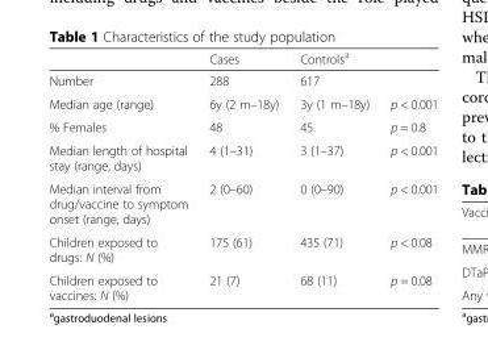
<table><thead><tr><td></td><td>Cases</td><td>Controls<sup>a</sup></td><td></td></tr></thead><tbody><tr><td>Number</td><td>288</td><td>617</td><td></td></tr><tr><td>Median age (range)</td><td>6y (2 m–18y)</td><td>3y (1 m–18y)</td><td>p &lt; 0.001</td></tr><tr><td>% Females</td><td>48</td><td>45</td><td>p = 0.8</td></tr><tr><td>Median length of hospital stay (range, days)</td><td>4 (1–31)</td><td>3 (1–37)</td><td>p &lt; 0.001</td></tr><tr><td>Median interval from drug/vaccine to symptom onset (range, days)</td><td>2 (0–60)</td><td>0 (0–90)</td><td>p &lt; 0.001</td></tr><tr><td>Children exposed to drugs: N (%)</td><td>175 (61)</td><td>435 (71)</td><td>p &lt; 0.08</td></tr><tr><td>Children exposed to vaccines: N (%)</td><td>21 (7)</td><td>68 (11)</td><td>p = 0.08</td></tr></tbody></table>